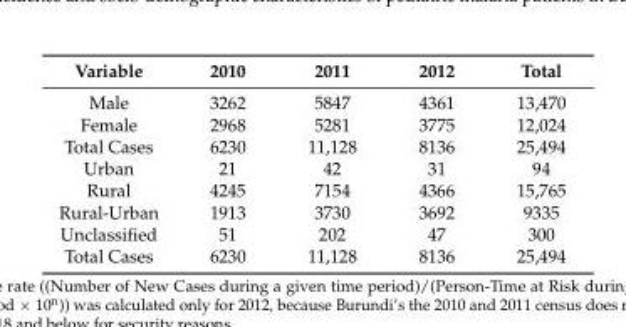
<table><thead><tr><td>Variable</td><td>2010</td><td>2011</td><td>2012</td><td>Total</td></tr></thead><tbody><tr><td>Male</td><td>3262</td><td>5847</td><td>4361</td><td>13,470</td></tr><tr><td>Female</td><td>2968</td><td>5281</td><td>3775</td><td>12,024</td></tr><tr><td>Total Cases</td><td>6230</td><td>11,128</td><td>8136</td><td>25,494</td></tr><tr><td>Urban</td><td>21</td><td>42</td><td>31</td><td>94</td></tr><tr><td>Rural</td><td>4245</td><td>7154</td><td>4366</td><td>15,765</td></tr><tr><td>Rural-Urban</td><td>1913</td><td>3730</td><td>3692</td><td>9335</td></tr><tr><td>Unclassified</td><td>51</td><td>202</td><td>47</td><td>300</td></tr><tr><td>Total Cases</td><td>6230</td><td>11,128</td><td>8136</td><td>25,494</td></tr></tbody></table>